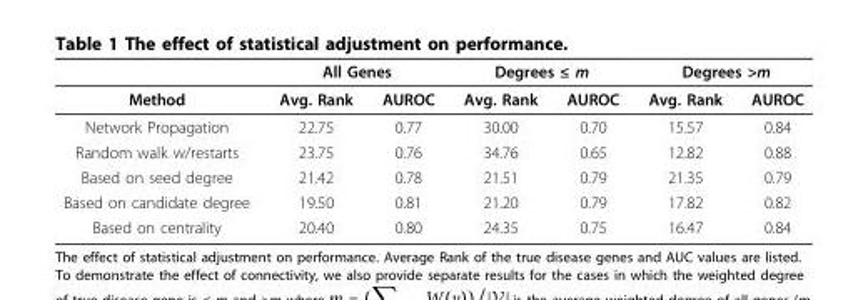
<table><thead><tr><td rowspan="2">Method</td><td colspan="2">All Genes</td><td colspan="2">Degrees ≤ m</td><td colspan="2">Degrees &gt;m</td></tr><tr><td>Avg. Rank</td><td>AUROC</td><td>Avg. Rank</td><td>AUROC</td><td>Avg. Rank</td><td>AUROC</td></tr></thead><tbody><tr><td>Network Propagation</td><td>22.75</td><td>0.77</td><td>30.00</td><td>0.70</td><td>15.57</td><td>0.84</td></tr><tr><td>Random walk w/restarts</td><td>23.75</td><td>0.76</td><td>34.76</td><td>0.65</td><td>12.82</td><td>0.88</td></tr><tr><td>Based on seed degree</td><td>21.42</td><td>0.78</td><td>21.51</td><td>0.79</td><td>21.35</td><td>0.79</td></tr><tr><td>Based on candidate degree</td><td>19.50</td><td>0.81</td><td>21.20</td><td>0.79</td><td>17.82</td><td>0.82</td></tr><tr><td>Based on centrality</td><td>20.40</td><td>0.80</td><td>24.35</td><td>0.75</td><td>16.47</td><td>0.84</td></tr></tbody></table>